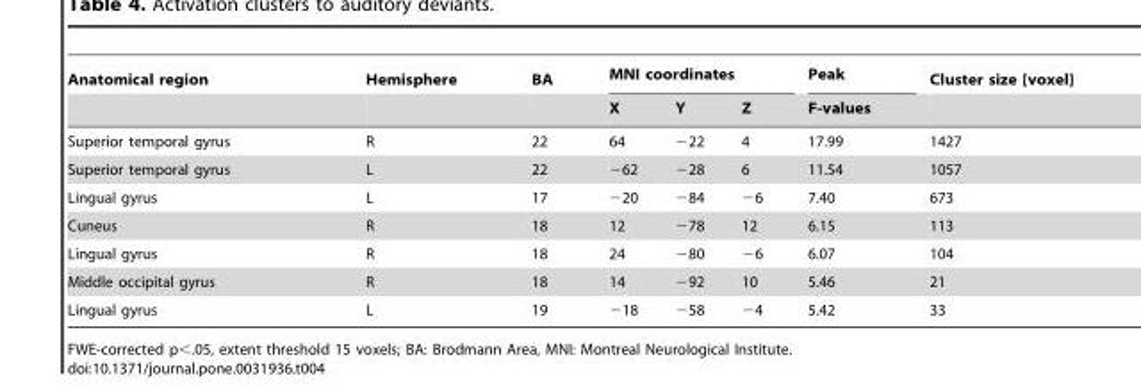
<table><thead><tr><td rowspan="2">Anatomical region</td><td rowspan="2">Hemisphere</td><td rowspan="2">BA</td><td colspan="3">MNI coordinates</td><td rowspan="2">Peak F-values</td><td rowspan="2">Cluster size [voxel]</td></tr><tr><td>X</td><td>Y</td><td>Z</td></tr></thead><tbody><tr><td>Superior temporal gyrus</td><td>R</td><td>22</td><td>64</td><td>−22</td><td>4</td><td>17.99</td><td>1427</td></tr><tr><td>Superior temporal gyrus</td><td>L</td><td>22</td><td>−62</td><td>−28</td><td>6</td><td>11.54</td><td>1057</td></tr><tr><td>Lingual gyrus</td><td>L</td><td>17</td><td>−20</td><td>−84</td><td>−6</td><td>7.40</td><td>673</td></tr><tr><td>Cuneus</td><td>R</td><td>18</td><td>12</td><td>−78</td><td>12</td><td>6.15</td><td>113</td></tr><tr><td>Lingual gyrus</td><td>R</td><td>18</td><td>24</td><td>−80</td><td>−6</td><td>6.07</td><td>104</td></tr><tr><td>Middle occipital gyrus</td><td>R</td><td>18</td><td>14</td><td>−92</td><td>10</td><td>5.46</td><td>21</td></tr><tr><td>Lingual gyrus</td><td>L</td><td>19</td><td>−18</td><td>−58</td><td>−4</td><td>5.42</td><td>33</td></tr></tbody></table>